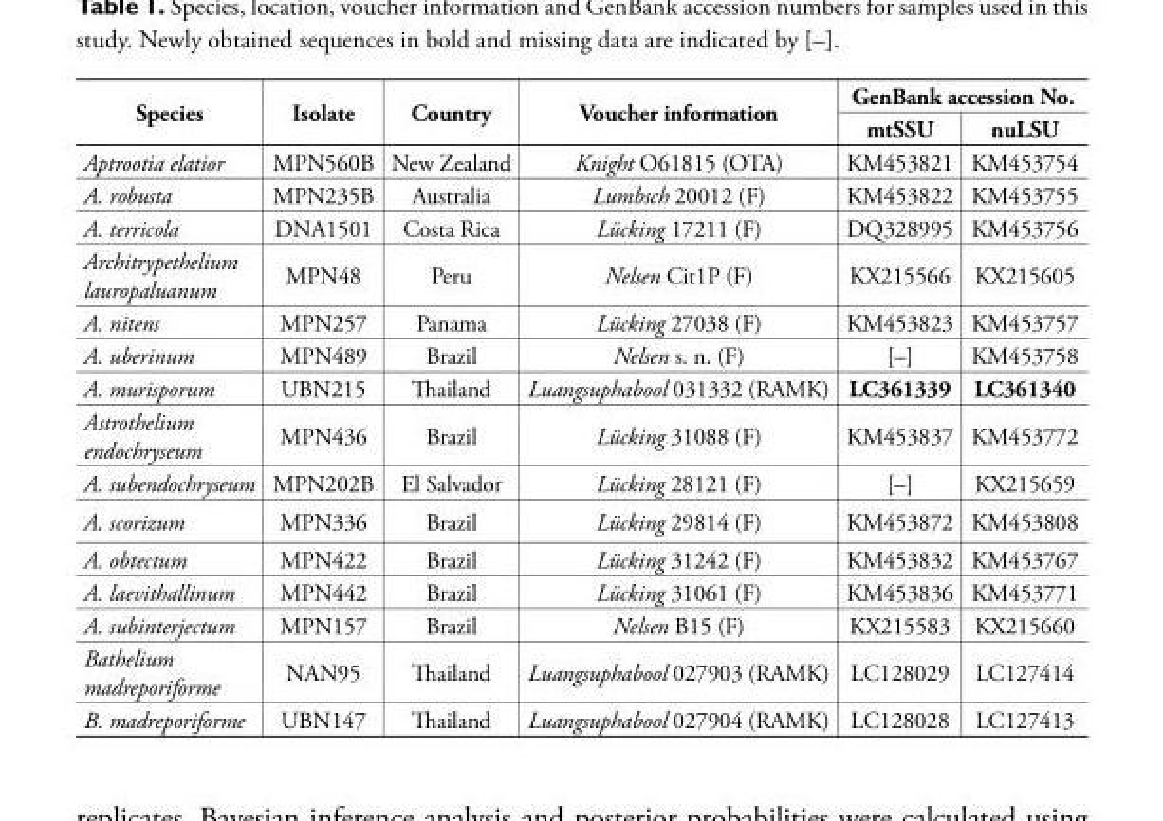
<table><thead><tr><td rowspan="2">Species</td><td rowspan="2">Isolate</td><td rowspan="2">Country</td><td rowspan="2">Voucher information</td><td colspan="2">GenBank accession No.</td></tr><tr><td>mtSSU</td><td>nuLSU</td></tr></thead><tbody><tr><td>Aptrootia elatior</td><td>MPN560B</td><td>New Zealand</td><td>Knight O61815 (OTA)</td><td>KM453821</td><td>KM453754</td></tr><tr><td>A. robusta</td><td>MPN235B</td><td>Australia</td><td>Lumbsch 20012 (F)</td><td>KM453822</td><td>KM453755</td></tr><tr><td>A. terricola</td><td>DNA1501</td><td>Costa Rica</td><td>Lücking 17211 (F)</td><td>DQ328995</td><td>KM453756</td></tr><tr><td>Architrypethelium lauropaluanum</td><td>MPN48</td><td>Peru</td><td>Nelsen Cit1P (F)</td><td>KX215566</td><td>KX215605</td></tr><tr><td>A. nitens</td><td>MPN257</td><td>Panama</td><td>Lücking 27038 (F)</td><td>KM453823</td><td>KM453757</td></tr><tr><td>A. uberinum</td><td>MPN489</td><td>Brazil</td><td>Nelsen s. n. (F)</td><td>[–]</td><td>KM453758</td></tr><tr><td>A. murisporum</td><td>UBN215</td><td>Thailand</td><td>Luangsuphabool 031332 (RAMK)</td><td>LC361339</td><td>LC361340</td></tr><tr><td>Astrothelium endochryseum</td><td>MPN436</td><td>Brazil</td><td>Lücking 31088 (F)</td><td>KM453837</td><td>KM453772</td></tr><tr><td>A. subendochryseum</td><td>MPN202B</td><td>El Salvador</td><td>Lücking 28121 (F)</td><td>[–]</td><td>KX215659</td></tr><tr><td>A. scorizum</td><td>MPN336</td><td>Brazil</td><td>Lücking 29814 (F)</td><td>KM453872</td><td>KM453808</td></tr><tr><td>A. obtectum</td><td>MPN422</td><td>Brazil</td><td>Lücking 31242 (F)</td><td>KM453832</td><td>KM453767</td></tr><tr><td>A. laevithallinum</td><td>MPN442</td><td>Brazil</td><td>Lücking 31061 (F)</td><td>KM453836</td><td>KM453771</td></tr><tr><td>A. subinterjectum</td><td>MPN157</td><td>Brazil</td><td>Nelsen B15 (F)</td><td>KX215583</td><td>KX215660</td></tr><tr><td>Bathelium madreporiforme</td><td>NAN95</td><td>Thailand</td><td>Luangsuphabool 027903 (RAMK)</td><td>LC128029</td><td>LC127414</td></tr><tr><td>B. madreporiforme</td><td>UBN147</td><td>Thailand</td><td>Luangsuphabool 027904 (RAMK)</td><td>LC128028</td><td>LC127413</td></tr></tbody></table>